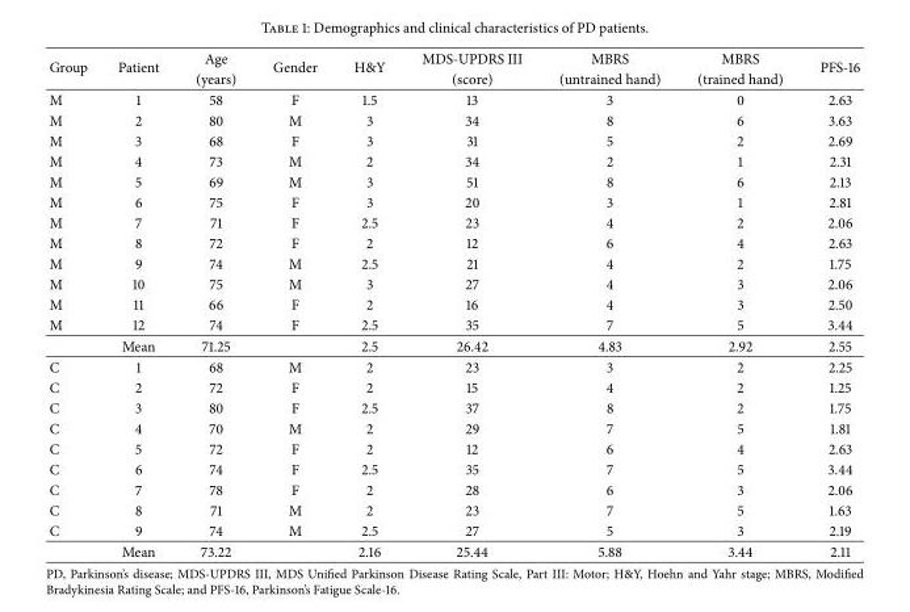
<table><thead><tr><td rowspan="2">Group</td><td rowspan="2">Patient</td><td rowspan="2">Age (years)</td><td rowspan="2">Gender</td><td rowspan="2">H&amp;Y</td><td rowspan="2">MDS-UPDRS III (score)</td><td rowspan="2">MBRS (untrained hand)</td><td rowspan="2">MBRS (trained hand)</td><td rowspan="2">PFS-16</td></tr><tr></tr></thead><tbody><tr><td>M</td><td>1</td><td>58</td><td>F</td><td>1.5</td><td>13</td><td>3</td><td>0</td><td>2.63</td></tr><tr><td>M</td><td>2</td><td>80</td><td>M</td><td>3</td><td>34</td><td>8</td><td>6</td><td>3.63</td></tr><tr><td>M</td><td>3</td><td>68</td><td>F</td><td>3</td><td>31</td><td>5</td><td>2</td><td>2.69</td></tr><tr><td>M</td><td>4</td><td>73</td><td>M</td><td>2</td><td>34</td><td>2</td><td>1</td><td>2.31</td></tr><tr><td>M</td><td>5</td><td>69</td><td>M</td><td>3</td><td>51</td><td>8</td><td>6</td><td>2.13</td></tr><tr><td>M</td><td>6</td><td>75</td><td>F</td><td>3</td><td>20</td><td>3</td><td>1</td><td>2.81</td></tr><tr><td>M</td><td>7</td><td>71</td><td>F</td><td>2.5</td><td>23</td><td>4</td><td>2</td><td>2.06</td></tr><tr><td>M</td><td>8</td><td>72</td><td>F</td><td>2</td><td>12</td><td>6</td><td>4</td><td>2.63</td></tr><tr><td>M</td><td>9</td><td>74</td><td>M</td><td>2.5</td><td>21</td><td>4</td><td>2</td><td>1.75</td></tr><tr><td>M</td><td>10</td><td>75</td><td>M</td><td>3</td><td>27</td><td>4</td><td>3</td><td>2.06</td></tr><tr><td>M</td><td>11</td><td>66</td><td>F</td><td>2</td><td>16</td><td>4</td><td>3</td><td>2.50</td></tr><tr><td rowspan="2">M</td><td>12</td><td>74</td><td>F</td><td>2.5</td><td>35</td><td>7</td><td>5</td><td>3.44</td></tr><tr><td>Mean</td><td>71.25</td><td></td><td>2.5</td><td>26.42</td><td>4.83</td><td>2.92</td><td>2.55</td></tr><tr><td>C</td><td>1</td><td>68</td><td>M</td><td>2</td><td>23</td><td>3</td><td>2</td><td>2.25</td></tr><tr><td>C</td><td>2</td><td>72</td><td>F</td><td>2</td><td>15</td><td>4</td><td>2</td><td>1.25</td></tr><tr><td>C</td><td>3</td><td>80</td><td>F</td><td>2.5</td><td>37</td><td>8</td><td>2</td><td>1.75</td></tr><tr><td>C</td><td>4</td><td>70</td><td>M</td><td>2</td><td>29</td><td>7</td><td>5</td><td>1.81</td></tr><tr><td>C</td><td>5</td><td>72</td><td>F</td><td>2</td><td>12</td><td>6</td><td>4</td><td>2.63</td></tr><tr><td>C</td><td>6</td><td>74</td><td>F</td><td>2.5</td><td>35</td><td>7</td><td>5</td><td>3.44</td></tr><tr><td>C</td><td>7</td><td>78</td><td>F</td><td>2</td><td>28</td><td>6</td><td>3</td><td>2.06</td></tr><tr><td>C</td><td>8</td><td>71</td><td>M</td><td>2</td><td>23</td><td>7</td><td>5</td><td>1.63</td></tr><tr><td rowspan="2">C</td><td>9</td><td>74</td><td>M</td><td>2.5</td><td>27</td><td>5</td><td>3</td><td>2.19</td></tr><tr><td>Mean</td><td>73.22</td><td></td><td>2.16</td><td>25.44</td><td>5.88</td><td>3.44</td><td>2.11</td></tr></tbody></table>